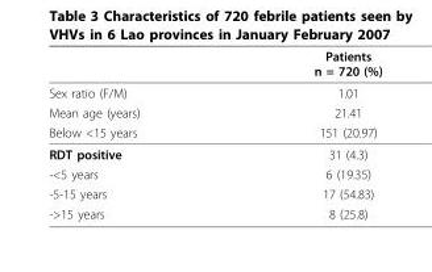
<table><thead><tr><td></td><td>Patients n = 720 (%)</td></tr></thead><tbody><tr><td>Sex ratio (F/M)</td><td>1.01</td></tr><tr><td>Mean age (years)</td><td>21.41</td></tr><tr><td>Below &lt;15 years</td><td>151 (20.97)</td></tr><tr><td>RDT positive</td><td>31 (4.3)</td></tr><tr><td>-&lt;5 years</td><td>6 (19.35)</td></tr><tr><td>-5-15 years</td><td>17 (54.83)</td></tr><tr><td>-&gt;15 years</td><td>8 (25.8)</td></tr></tbody></table>